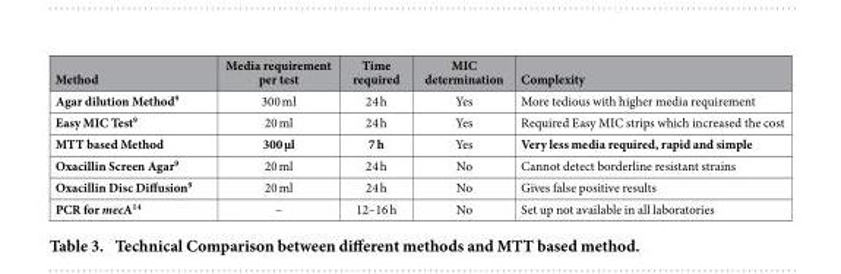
<table><thead><tr><td>Method</td><td>Media requirement per test</td><td>Time required</td><td>MIC determination</td><td>Complexity</td></tr></thead><tbody><tr><td>Agar dilution Method<sup>9</sup></td><td>300 ml</td><td>24 h</td><td>Yes</td><td>More tedious with higher media requirement</td></tr><tr><td>Easy MIC Test<sup>9</sup></td><td>20 ml</td><td>24 h</td><td>Yes</td><td>Required Easy MIC strips which increased the cost</td></tr><tr><td>MTT based Method</td><td>300 μl</td><td>7 h</td><td>Yes</td><td>Very less media required, rapid and simple</td></tr><tr><td>Oxacillin Screen Agar<sup>9</sup></td><td>20 ml</td><td>24 h</td><td>No</td><td>Cannot detect borderline resistant strains</td></tr><tr><td>Oxacillin Disc Diffusion<sup>9</sup></td><td>20 ml</td><td>24 h</td><td>No</td><td>Gives false positive results</td></tr><tr><td>PCR for mecA<sup>14</sup></td><td>–</td><td>12–16 h</td><td>No</td><td>Set up not available in all laboratories</td></tr></tbody></table>